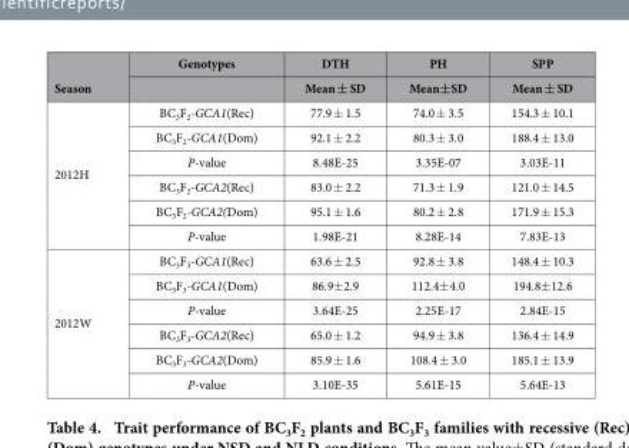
<table><thead><tr><td rowspan="2">Season</td><td rowspan="2">Genotypes</td><td rowspan="2">DTH Mean ± SD</td><td rowspan="2">PH Mean±SD</td><td rowspan="2">SPP Mean ± SD</td></tr><tr></tr></thead><tbody><tr><td rowspan="6">2012H</td><td>BC<sub>3</sub>F<sub>2</sub>-GCA1(Rec)</td><td>77.9 ± 1.5</td><td>74.0 ± 3.5</td><td>154.3 ± 10.1</td></tr><tr><td>BC<sub>3</sub>F<sub>2</sub>-GCA1(Dom)</td><td>92.1 ± 2.2</td><td>80.3 ± 3.0</td><td>188.4 ± 13.0</td></tr><tr><td>P-value</td><td>8.48E-25</td><td>3.35E-07</td><td>3.03E-11</td></tr><tr><td>BC<sub>3</sub>F<sub>2</sub>-GCA2(Rec)</td><td>83.0 ± 2.2</td><td>71.3 ± 1.9</td><td>121.0 ± 14.5</td></tr><tr><td>BC<sub>3</sub>F<sub>2</sub>-GCA2(Dom)</td><td>95.1 ± 1.6</td><td>80.2 ± 2.8</td><td>171.9 ± 15.3</td></tr><tr><td>P-value</td><td>1.98E-21</td><td>8.28E-14</td><td>7.83E-13</td></tr><tr><td rowspan="6">2012W</td><td>BC<sub>3</sub>F<sub>3</sub>-GCA1(Rec)</td><td>63.6 ± 2.5</td><td>92.8 ± 3.8</td><td>148.4 ± 10.3</td></tr><tr><td>BC<sub>3</sub>F<sub>3</sub>-GCA1(Dom)</td><td>86.9± 2.9</td><td>112.4± 4.0</td><td>194.8± 12.6</td></tr><tr><td>P-value</td><td>3.64E-25</td><td>2.25E-17</td><td>2.84E-15</td></tr><tr><td>BC<sub>3</sub>F<sub>3</sub>-GCA2(Rec)</td><td>65.0 ± 1.2</td><td>94.9 ± 3.8</td><td>136.4 ± 14.9</td></tr><tr><td>BC<sub>3</sub>F<sub>3</sub>-GCA2(Dom)</td><td>85.9 ± 1.6</td><td>108.4 ± 3.0</td><td>185.1 ± 13.9</td></tr><tr><td>P-value</td><td>3.10E-35</td><td>5.61E-15</td><td>5.64E-13</td></tr></tbody></table>